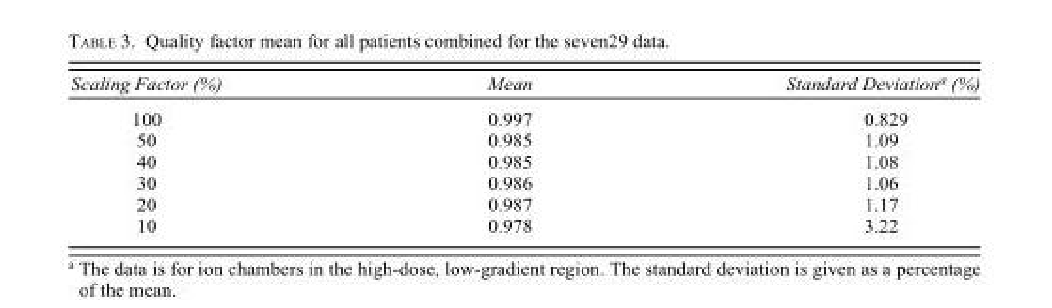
<table><thead><tr><td>Scaling Factor (%)</td><td>Mean</td><td>Standard Deviation<sup>a</sup> (%)</td></tr></thead><tbody><tr><td>100</td><td>0.997</td><td>0.829</td></tr><tr><td>50</td><td>0.985</td><td>1.09</td></tr><tr><td>40</td><td>0.985</td><td>1.08</td></tr><tr><td>30</td><td>0.986</td><td>1.06</td></tr><tr><td>20</td><td>0.987</td><td>1.17</td></tr><tr><td>10</td><td>0.978</td><td>3.22</td></tr></tbody></table>